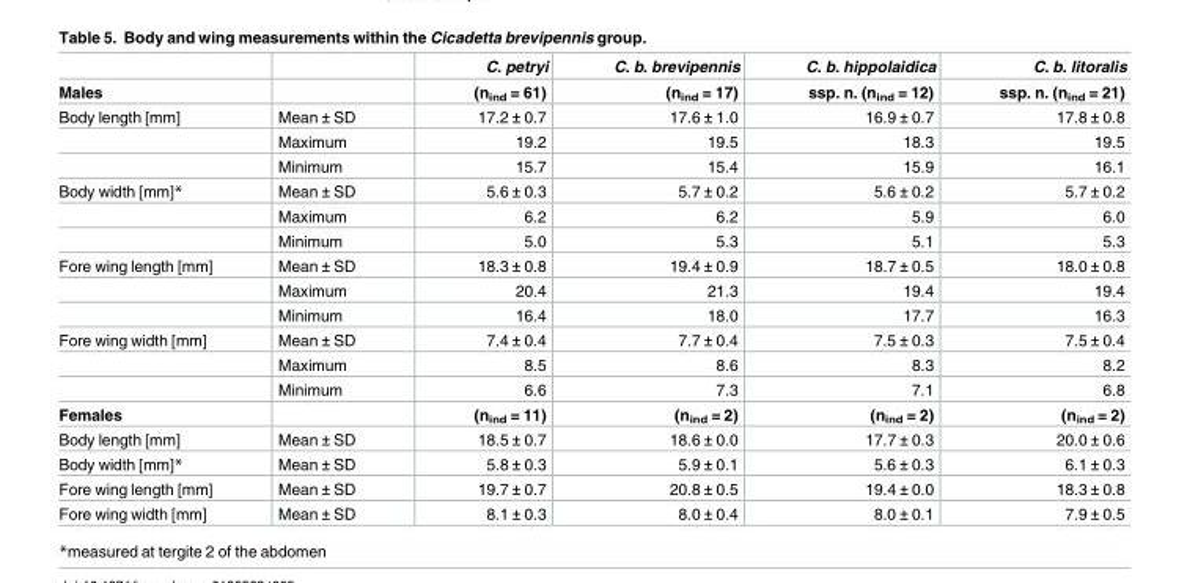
<table><thead><tr><td></td><td></td><td>C. petryi</td><td>C. b. brevipennis</td><td>C. b. hippolaidica</td><td>C. b. litoralis</td></tr></thead><tbody><tr><td>Males</td><td></td><td>(n<sub>ind</sub> = 61)</td><td>(n<sub>ind</sub> = 17)</td><td>ssp. n. (n<sub>ind</sub> = 12)</td><td>ssp. n. (n<sub>ind</sub> = 21)</td></tr><tr><td rowspan="3">Body length [mm]</td><td>Mean ± SD</td><td>17.2 ± 0.7</td><td>17.6 ± 1.0</td><td>16.9 ± 0.7</td><td>17.8 ± 0.8</td></tr><tr><td>Maximum</td><td>19.2</td><td>19.5</td><td>18.3</td><td>19.5</td></tr><tr><td>Minimum</td><td>15.7</td><td>15.4</td><td>15.9</td><td>16.1</td></tr><tr><td rowspan="3">Body width [mm]*</td><td>Mean ± SD</td><td>5.6 ± 0.3</td><td>5.7 ± 0.2</td><td>5.6 ± 0.2</td><td>5.7 ± 0.2</td></tr><tr><td>Maximum</td><td>6.2</td><td>6.2</td><td>5.9</td><td>6.0</td></tr><tr><td>Minimum</td><td>5.0</td><td>5.3</td><td>5.1</td><td>5.3</td></tr><tr><td rowspan="3">Fore wing length [mm]</td><td>Mean ± SD</td><td>18.3 ± 0.8</td><td>19.4 ± 0.9</td><td>18.7 ± 0.5</td><td>18.0 ± 0.8</td></tr><tr><td>Maximum</td><td>20.4</td><td>21.3</td><td>19.4</td><td>19.4</td></tr><tr><td>Minimum</td><td>16.4</td><td>18.0</td><td>17.7</td><td>16.3</td></tr><tr><td rowspan="3">Fore wing width [mm]</td><td>Mean ± SD</td><td>7.4 ± 0.4</td><td>7.7 ± 0.4</td><td>7.5 ± 0.3</td><td>7.5 ± 0.4</td></tr><tr><td>Maximum</td><td>8.5</td><td>8.6</td><td>8.3</td><td>8.2</td></tr><tr><td>Minimum</td><td>6.6</td><td>7.3</td><td>7.1</td><td>6.8</td></tr><tr><td>Females</td><td></td><td>(n<sub>ind</sub> = 11)</td><td>(n<sub>ind</sub> = 2)</td><td>(n<sub>ind</sub> = 2)</td><td>(n<sub>ind</sub> = 2)</td></tr><tr><td>Body length [mm]</td><td>Mean ± SD</td><td>18.5 ± 0.7</td><td>18.6 ± 0.0</td><td>17.7 ± 0.3</td><td>20.0 ± 0.6</td></tr><tr><td>Body width [mm]*</td><td>Mean ± SD</td><td>5.8 ± 0.3</td><td>5.9 ± 0.1</td><td>5.6 ± 0.3</td><td>6.1 ± 0.3</td></tr><tr><td>Fore wing length [mm]</td><td>Mean ± SD</td><td>19.7 ± 0.7</td><td>20.8 ± 0.5</td><td>19.4 ± 0.0</td><td>18.3 ± 0.8</td></tr><tr><td>Fore wing width [mm]</td><td>Mean ± SD</td><td>8.1 ± 0.3</td><td>8.0 ± 0.4</td><td>8.0 ± 0.1</td><td>7.9 ± 0.5</td></tr></tbody></table>